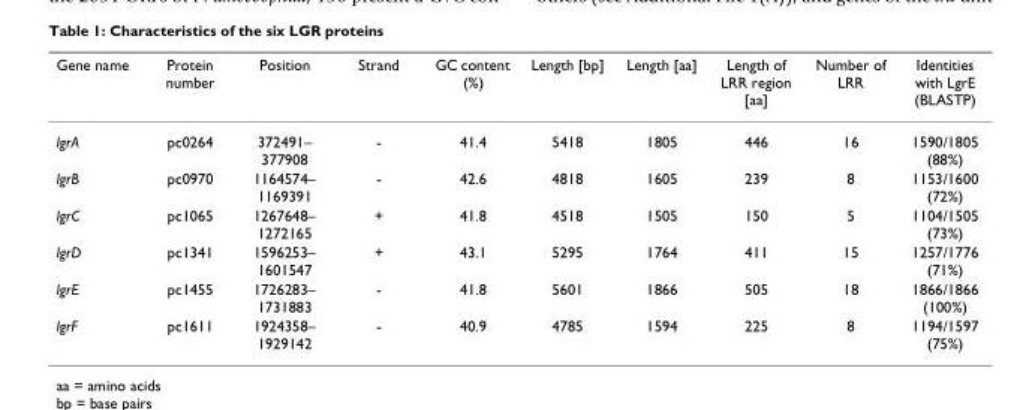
<table><thead><tr><td>Gene name</td><td>Protein number</td><td>Position</td><td>Strand</td><td>GC content (%)</td><td>Length [bp]</td><td>Length [aa]</td><td>Length of LRR region [aa]</td><td>Number of LRR</td><td>Identities with LgrE (BLASTP)</td></tr></thead><tbody><tr><td>lgrA</td><td>pc0264</td><td>372491– 377908</td><td>-</td><td>41.4</td><td>5418</td><td>1805</td><td>446</td><td>16</td><td>1590/1805 (88%)</td></tr><tr><td>lgrB</td><td>pc0970</td><td>1164574– 1169391</td><td>-</td><td>42.6</td><td>4818</td><td>1605</td><td>239</td><td>8</td><td>1153/1600 (72%)</td></tr><tr><td>lgrC</td><td>pc1065</td><td>1267648– 1272165</td><td>+</td><td>41.8</td><td>4518</td><td>1505</td><td>150</td><td>5</td><td>1104/1505 (73%)</td></tr><tr><td>lgrD</td><td>pc1341</td><td>1596253– 1601547</td><td>+</td><td>43.1</td><td>5295</td><td>1764</td><td>411</td><td>15</td><td>1257/1776 (71%)</td></tr><tr><td>lgrE</td><td>pc1455</td><td>1726283– 1731883</td><td>-</td><td>41.8</td><td>5601</td><td>1866</td><td>505</td><td>18</td><td>1866/1866 (100%)</td></tr><tr><td>lgrF</td><td>pc1611</td><td>1924358– 1929142</td><td>-</td><td>40.9</td><td>4785</td><td>1594</td><td>225</td><td>8</td><td>1194/1597 (75%)</td></tr></tbody></table>